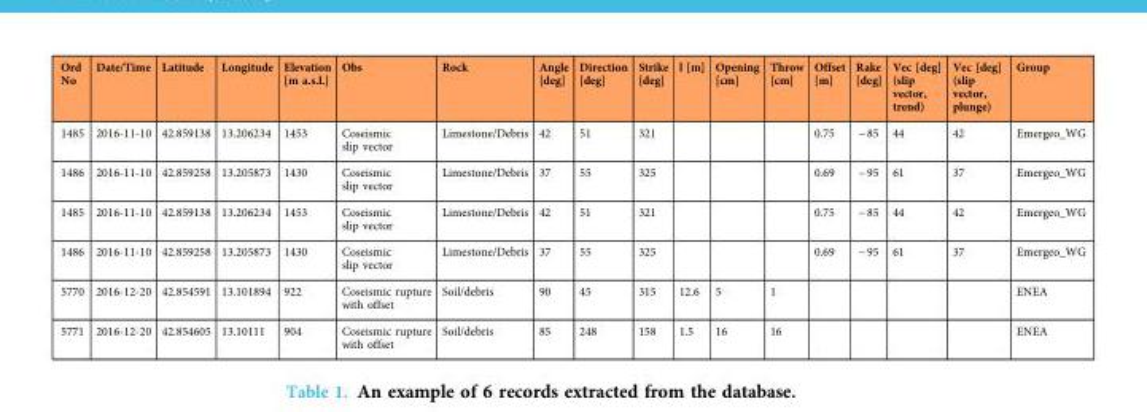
<table><thead><tr><td>Ord No</td><td>Date/Time</td><td>Latitude</td><td>Longitude</td><td>Elevation [m a.s.l.]</td><td>Obs</td><td>Rock</td><td>Angle [deg]</td><td>Direction [deg]</td><td>Strike [deg]</td><td>l [m]</td><td>Opening [cm]</td><td>Throw [cm]</td><td>Offset [m]</td><td>Rake [deg]</td><td>Vec [deg] (slip vector, trend)</td><td>Vec [deg] (slip vector, plunge)</td><td>Group</td></tr></thead><tbody><tr><td>1485</td><td>2016-11-10</td><td>42.859138</td><td>13.206234</td><td>1453</td><td>Coseismic slip vector</td><td>Limestone/Debris</td><td>42</td><td>51</td><td>321</td><td></td><td></td><td></td><td>0.75</td><td>− 85</td><td>44</td><td>42</td><td>Emergeo_WG</td></tr><tr><td>1486</td><td>2016-11-10</td><td>42.859258</td><td>13.205873</td><td>1430</td><td>Coseismic slip vector</td><td>Limestone/Debris</td><td>37</td><td>55</td><td>325</td><td></td><td></td><td></td><td>0.69</td><td>− 95</td><td>61</td><td>37</td><td>Emergeo_WG</td></tr><tr><td>1485</td><td>2016-11-10</td><td>42.859138</td><td>13.206234</td><td>1453</td><td>Coseismic slip vector</td><td>Limestone/Debris</td><td>42</td><td>51</td><td>321</td><td></td><td></td><td></td><td>0.75</td><td>− 85</td><td>44</td><td>42</td><td>Emergeo_WG</td></tr><tr><td>1486</td><td>2016-11-10</td><td>42.859258</td><td>13.205873</td><td>1430</td><td>Coseismic slip vector</td><td>Limestone/Debris</td><td>37</td><td>55</td><td>325</td><td></td><td></td><td></td><td>0.69</td><td>− 95</td><td>61</td><td>37</td><td>Emergeo_WG</td></tr><tr><td>5770</td><td>2016-12-20</td><td>42.854591</td><td>13.101894</td><td>922</td><td>Coseismic rupture with offset</td><td>Soil/debris</td><td>90</td><td>45</td><td>315</td><td>12.6</td><td>5</td><td>1</td><td></td><td></td><td></td><td></td><td>ENEA</td></tr><tr><td>5771</td><td>2016-12-20</td><td>42.854605</td><td>13.10111</td><td>904</td><td>Coseismic rupture with offset</td><td>Soil/debris</td><td>85</td><td>248</td><td>158</td><td>1.5</td><td>16</td><td>16</td><td></td><td></td><td></td><td></td><td>ENEA</td></tr></tbody></table>